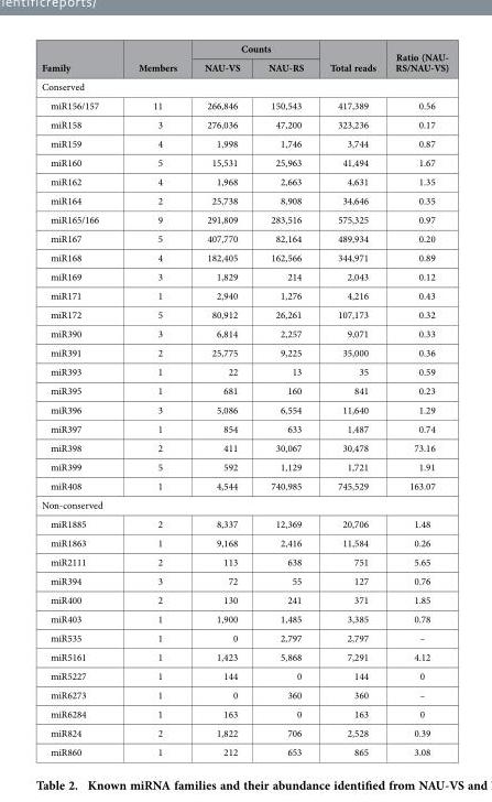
<table><thead><tr><td rowspan="2">Family</td><td rowspan="2">Members</td><td colspan="2">Counts</td><td rowspan="2">Total reads</td><td rowspan="2">Ratio (NAU- RS/NAU-VS)</td></tr><tr><td>NAU-VS</td><td>NAU-RS</td></tr></thead><tbody><tr><td colspan="6">Conserved</td></tr><tr><td>miR156/157</td><td>11</td><td>266,846</td><td>150,543</td><td>417,389</td><td>0.56</td></tr><tr><td>miR158</td><td>3</td><td>276,036</td><td>47,200</td><td>323,236</td><td>0.17</td></tr><tr><td>miR159</td><td>4</td><td>1,998</td><td>1,746</td><td>3,744</td><td>0.87</td></tr><tr><td>miR160</td><td>5</td><td>15,531</td><td>25,963</td><td>41,494</td><td>1.67</td></tr><tr><td>miR162</td><td>4</td><td>1,968</td><td>2,663</td><td>4,631</td><td>1.35</td></tr><tr><td>miR164</td><td>2</td><td>25,738</td><td>8,908</td><td>34,646</td><td>0.35</td></tr><tr><td>miR165/166</td><td>9</td><td>291,809</td><td>283,516</td><td>575,325</td><td>0.97</td></tr><tr><td>miR167</td><td>5</td><td>407,770</td><td>82,164</td><td>489,934</td><td>0.20</td></tr><tr><td>miR168</td><td>4</td><td>182,405</td><td>162,566</td><td>344,971</td><td>0.89</td></tr><tr><td>miR169</td><td>3</td><td>1,829</td><td>214</td><td>2,043</td><td>0.12</td></tr><tr><td>miR171</td><td>1</td><td>2,940</td><td>1,276</td><td>4,216</td><td>0.43</td></tr><tr><td>miR172</td><td>5</td><td>80,912</td><td>26,261</td><td>107,173</td><td>0.32</td></tr><tr><td>miR390</td><td>3</td><td>6,814</td><td>2,257</td><td>9,071</td><td>0.33</td></tr><tr><td>miR391</td><td>2</td><td>25,775</td><td>9,225</td><td>35,000</td><td>0.36</td></tr><tr><td>miR393</td><td>1</td><td>22</td><td>13</td><td>35</td><td>0.59</td></tr><tr><td>miR395</td><td>1</td><td>681</td><td>160</td><td>841</td><td>0.23</td></tr><tr><td>miR396</td><td>3</td><td>5,086</td><td>6,554</td><td>11,640</td><td>1.29</td></tr><tr><td>miR397</td><td>1</td><td>854</td><td>633</td><td>1,487</td><td>0.74</td></tr><tr><td>miR398</td><td>2</td><td>411</td><td>30,067</td><td>30,478</td><td>73.16</td></tr><tr><td>miR399</td><td>5</td><td>592</td><td>1,129</td><td>1,721</td><td>1.91</td></tr><tr><td>miR408</td><td>1</td><td>4,544</td><td>740,985</td><td>745,529</td><td>163.07</td></tr><tr><td colspan="6">Non-conserved</td></tr><tr><td>miR1885</td><td>2</td><td>8,337</td><td>12,369</td><td>20,706</td><td>1.48</td></tr><tr><td>miR1863</td><td>1</td><td>9,168</td><td>2,416</td><td>11,584</td><td>0.26</td></tr><tr><td>miR2111</td><td>2</td><td>113</td><td>638</td><td>751</td><td>5.65</td></tr><tr><td>miR394</td><td>3</td><td>72</td><td>55</td><td>127</td><td>0.76</td></tr><tr><td>miR400</td><td>2</td><td>130</td><td>241</td><td>371</td><td>1.85</td></tr><tr><td>miR403</td><td>1</td><td>1,900</td><td>1,485</td><td>3,385</td><td>0.78</td></tr><tr><td>miR535</td><td>1</td><td>0</td><td>2,797</td><td>2,797</td><td>–</td></tr><tr><td>miR5161</td><td>1</td><td>1,423</td><td>5,868</td><td>7,291</td><td>4.12</td></tr><tr><td>miR5227</td><td>1</td><td>144</td><td>0</td><td>144</td><td>0</td></tr><tr><td>miR6273</td><td>1</td><td>0</td><td>360</td><td>360</td><td>–</td></tr><tr><td>miR6284</td><td>1</td><td>163</td><td>0</td><td>163</td><td>0</td></tr><tr><td>miR824</td><td>2</td><td>1,822</td><td>706</td><td>2,528</td><td>0.39</td></tr><tr><td>miR860</td><td>1</td><td>212</td><td>653</td><td>865</td><td>3.08</td></tr></tbody></table>